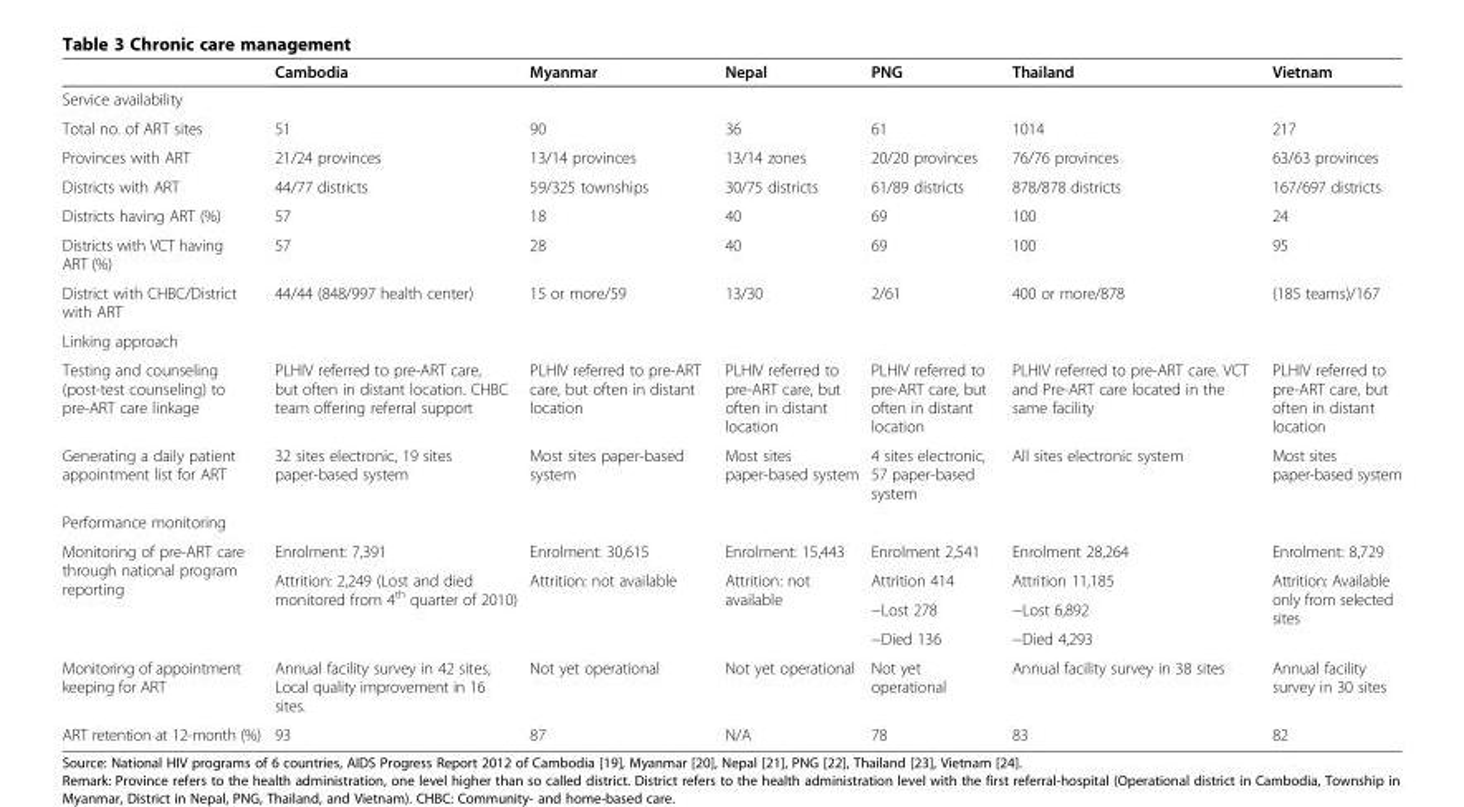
<table><thead><tr><td></td><td>Cambodia</td><td>Myanmar</td><td>Nepal</td><td>PNG</td><td>Thailand</td><td>Vietnam</td></tr></thead><tbody><tr><td colspan="7">Service availability</td></tr><tr><td>Total no. of ART sites</td><td>51</td><td>90</td><td>36</td><td>61</td><td>1014</td><td>217</td></tr><tr><td>Provinces with ART</td><td>21/24 provinces</td><td>13/14 provinces</td><td>13/14 zones</td><td>20/20 provinces</td><td>76/76 provinces</td><td>63/63 provinces</td></tr><tr><td>Districts with ART</td><td>44/77 districts</td><td>59/325 townships</td><td>30/75 districts</td><td>61/89 districts</td><td>878/878 districts</td><td>167/697 districts</td></tr><tr><td>Districts having ART (%)</td><td>57</td><td>18</td><td>40</td><td>69</td><td>100</td><td>24</td></tr><tr><td>Districts with VCT having ART (%)</td><td>57</td><td>28</td><td>40</td><td>69</td><td>100</td><td>95</td></tr><tr><td>District with CHBC/District with ART</td><td>44/44 (848/997 health center)</td><td>15 or more/59</td><td>13/30</td><td>2/61</td><td>400 or more/878</td><td>(185 teams)/167</td></tr><tr><td colspan="7">Linking approach</td></tr><tr><td>Testing and counseling (post-test counseling) to pre-ART care linkage</td><td>PLHIV referred to pre-ART care, but often in distant location. CHBC team offering referral support</td><td>PLHIV referred to pre-ART care, but often in distant location</td><td>PLHIV referred to pre-ART care, but often in distant location</td><td>PLHIV referred to pre-ART care, but often in distant location</td><td>PLHIV referred to pre-ART care. VCT and Pre-ART care located in the same facility</td><td>PLHIV referred to pre-ART care, but often in distant location</td></tr><tr><td>Generating a daily patient appointment list for ART</td><td>32 sites electronic, 19 sites paper-based system</td><td>Most sites paper-based system</td><td>Most sites paper-based system</td><td>4 sites electronic, 57 paper-based system</td><td>All sites electronic system</td><td>Most sites paper-based system</td></tr><tr><td colspan="7">Performance monitoring</td></tr><tr><td rowspan="4">Monitoring of pre-ART care through national program reporting</td><td>Enrolment: 7,391</td><td>Enrolment: 30,615</td><td>Enrolment: 15,443</td><td>Enrolment 2,541</td><td>Enrolment 28,264</td><td>Enrolment: 8,729</td></tr><tr><td rowspan="3">Attrition: 2,249 (Lost and died monitored from 4<sup>th</sup> quarter of 2010)</td><td rowspan="3">Attrition: not available</td><td rowspan="3">Attrition: not available</td><td>Attrition 414</td><td>Attrition 11,185</td><td rowspan="3">Attrition: Available only from selected sites</td></tr><tr><td>−Lost 278</td><td>−Lost 6,892</td></tr><tr><td>−Died 136</td><td>−Died 4,293</td></tr><tr><td>Monitoring of appointment keeping for ART</td><td>Annual facility survey in 42 sites, Local quality improvement in 16 sites.</td><td>Not yet operational</td><td>Not yet operational</td><td>Not yet operational</td><td>Annual facility survey in 38 sites</td><td>Annual facility survey in 30 sites</td></tr><tr><td>ART retention at 12-month (%)</td><td>93</td><td>87</td><td>N/A</td><td>78</td><td>83</td><td>82</td></tr></tbody></table>